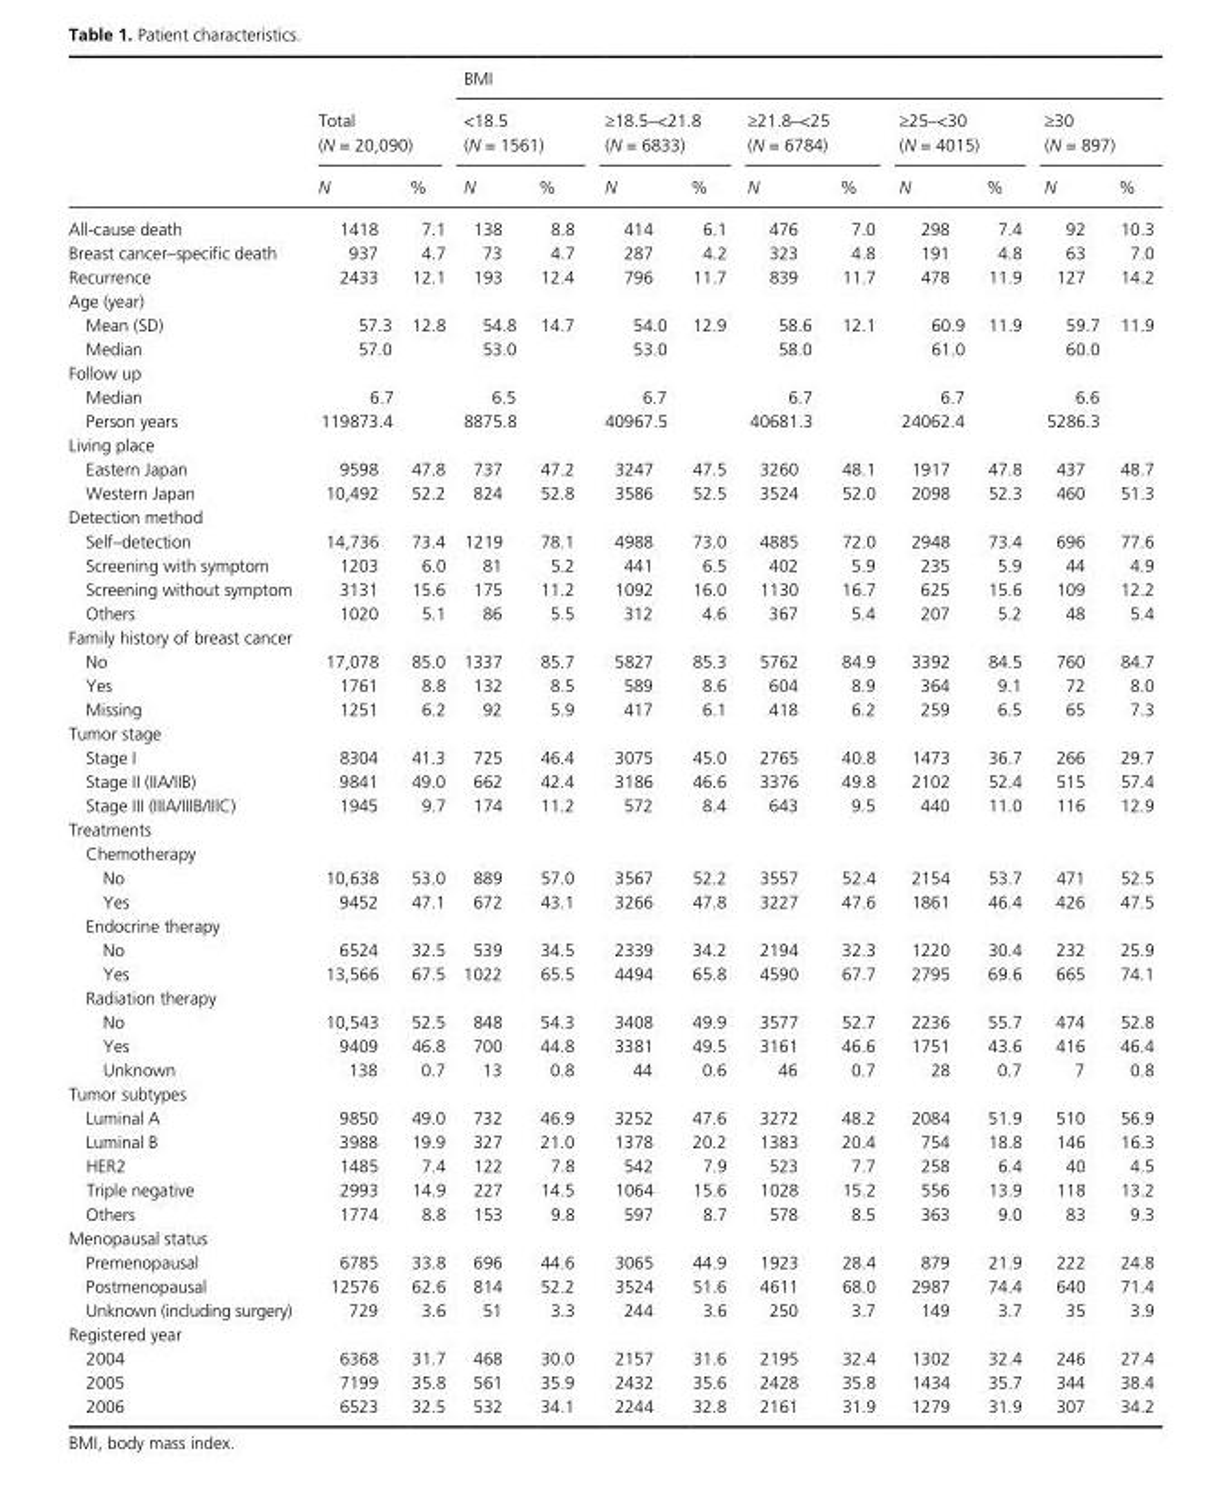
<table><thead><tr><td rowspan="3"></td><td></td><td></td><td colspan="10">BMI</td></tr><tr><td colspan="2">Total (N = 20,090)</td><td colspan="2">&lt;18.5 (N = 1561)</td><td colspan="2">≥18.5–&lt;21.8 (N = 6833)</td><td colspan="2">≥21.8–&lt;25 (N = 6784)</td><td colspan="2">≥25–&lt;30 (N = 4015)</td><td colspan="2">≥30 (N = 897)</td></tr><tr><td>N</td><td>%</td><td>N</td><td>%</td><td>N</td><td>%</td><td>N</td><td>%</td><td>N</td><td>%</td><td>N</td><td>%</td></tr></thead><tbody><tr><td>All- cause death</td><td>1418</td><td>7.1</td><td>138</td><td>8.8</td><td>414</td><td>6.1</td><td>476</td><td>7.0</td><td>298</td><td>7.4</td><td>92</td><td>10.3</td></tr><tr><td>Breast cancer–specific death</td><td>937</td><td>4.7</td><td>73</td><td>4.7</td><td>287</td><td>4.2</td><td>323</td><td>4.8</td><td>191</td><td>4.8</td><td>63</td><td>7.0</td></tr><tr><td>Recurrence</td><td>2433</td><td>12.1</td><td>193</td><td>12.4</td><td>796</td><td>11.7</td><td>839</td><td>11.7</td><td>478</td><td>11.9</td><td>127</td><td>14.2</td></tr><tr><td colspan="13">Age (year)</td></tr><tr><td>Mean (SD)</td><td>57.3</td><td>12.8</td><td>54.8</td><td>14.7</td><td>54.0</td><td>12.9</td><td>58.6</td><td>12.1</td><td>60.9</td><td>11.9</td><td>59.7</td><td>11.9</td></tr><tr><td>Median</td><td>57.0</td><td></td><td>53.0</td><td></td><td>53.0</td><td></td><td>58.0</td><td></td><td>61.0</td><td></td><td>60.0</td><td></td></tr><tr><td colspan="13">Follow up</td></tr><tr><td>Median</td><td>6.7</td><td></td><td>6.5</td><td></td><td>6.7</td><td></td><td>6.7</td><td></td><td>6.7</td><td></td><td>6.6</td><td></td></tr><tr><td>Person years</td><td>119873.4</td><td></td><td>8875.8</td><td></td><td>40967.5</td><td></td><td>40681.3</td><td></td><td>24062.4</td><td></td><td>5286.3</td><td></td></tr><tr><td colspan="13">Living place</td></tr><tr><td>Eastern Japan</td><td>9598</td><td>47.8</td><td>737</td><td>47.2</td><td>3247</td><td>47.5</td><td>3260</td><td>48.1</td><td>1917</td><td>47.8</td><td>437</td><td>48.7</td></tr><tr><td>Western Japan</td><td>10,492</td><td>52.2</td><td>824</td><td>52.8</td><td>3586</td><td>52.5</td><td>3524</td><td>52.0</td><td>2098</td><td>52.3</td><td>460</td><td>51.3</td></tr><tr><td colspan="13">Detection method</td></tr><tr><td>Self–detection</td><td>14,736</td><td>73.4</td><td>1219</td><td>78.1</td><td>4988</td><td>73.0</td><td>4885</td><td>72.0</td><td>2948</td><td>73.4</td><td>696</td><td>77.6</td></tr><tr><td>Screening with symptom</td><td>1203</td><td>6.0</td><td>81</td><td>5.2</td><td>441</td><td>6.5</td><td>402</td><td>5.9</td><td>235</td><td>5.9</td><td>44</td><td>4.9</td></tr><tr><td>Screening without symptom</td><td>3131</td><td>15.6</td><td>175</td><td>11.2</td><td>1092</td><td>16.0</td><td>1130</td><td>16.7</td><td>625</td><td>15.6</td><td>109</td><td>12.2</td></tr><tr><td>Others</td><td>1020</td><td>5.1</td><td>86</td><td>5.5</td><td>312</td><td>4.6</td><td>367</td><td>5.4</td><td>207</td><td>5.2</td><td>48</td><td>5.4</td></tr><tr><td colspan="13">Family history of breast cancer</td></tr><tr><td>No</td><td>17,078</td><td>85.0</td><td>1337</td><td>85.7</td><td>5827</td><td>85.3</td><td>5762</td><td>84.9</td><td>3392</td><td>84.5</td><td>760</td><td>84.7</td></tr><tr><td>Yes</td><td>1761</td><td>8.8</td><td>132</td><td>8.5</td><td>589</td><td>8.6</td><td>604</td><td>8.9</td><td>364</td><td>9.1</td><td>72</td><td>8.0</td></tr><tr><td>Missing</td><td>1251</td><td>6.2</td><td>92</td><td>5.9</td><td>417</td><td>6.1</td><td>418</td><td>6.2</td><td>259</td><td>6.5</td><td>65</td><td>7.3</td></tr><tr><td colspan="13">Tumor stage</td></tr><tr><td>Stage I</td><td>8304</td><td>41.3</td><td>725</td><td>46.4</td><td>3075</td><td>45.0</td><td>2765</td><td>40.8</td><td>1473</td><td>36.7</td><td>266</td><td>29.7</td></tr><tr><td>Stage II (IIA/IIB)</td><td>9841</td><td>49.0</td><td>662</td><td>42.4</td><td>3186</td><td>46.6</td><td>3376</td><td>49.8</td><td>2102</td><td>52.4</td><td>515</td><td>57.4</td></tr><tr><td>Stage III (IIIA/IIIB/IIIC)</td><td>1945</td><td>9.7</td><td>174</td><td>11.2</td><td>572</td><td>8.4</td><td>643</td><td>9.5</td><td>440</td><td>11.0</td><td>116</td><td>12.9</td></tr><tr><td colspan="13">Treatments</td></tr><tr><td colspan="13">Chemotherapy</td></tr><tr><td>No</td><td>10,638</td><td>53.0</td><td>889</td><td>57.0</td><td>3567</td><td>52.2</td><td>3557</td><td>52.4</td><td>2154</td><td>53.7</td><td>471</td><td>52.5</td></tr><tr><td>Yes</td><td>9452</td><td>47.1</td><td>672</td><td>43.1</td><td>3266</td><td>47.8</td><td>3227</td><td>47.6</td><td>1861</td><td>46.4</td><td>426</td><td>47.5</td></tr><tr><td colspan="13">Endocrine therapy</td></tr><tr><td>No</td><td>6524</td><td>32.5</td><td>539</td><td>34.5</td><td>2339</td><td>34.2</td><td>2194</td><td>32.3</td><td>1220</td><td>30.4</td><td>232</td><td>25.9</td></tr><tr><td>Yes</td><td>13,566</td><td>67.5</td><td>1022</td><td>65.5</td><td>4494</td><td>65.8</td><td>4590</td><td>67.7</td><td>2795</td><td>69.6</td><td>665</td><td>74.1</td></tr><tr><td colspan="13">Radiation therapy</td></tr><tr><td>No</td><td>10,543</td><td>52.5</td><td>848</td><td>54.3</td><td>3408</td><td>49.9</td><td>3577</td><td>52.7</td><td>2236</td><td>55.7</td><td>474</td><td>52.8</td></tr><tr><td>Yes</td><td>9409</td><td>46.8</td><td>700</td><td>44.8</td><td>3381</td><td>49.5</td><td>3161</td><td>46.6</td><td>1751</td><td>43.6</td><td>416</td><td>46.4</td></tr><tr><td>Unknown</td><td>138</td><td>0.7</td><td>13</td><td>0.8</td><td>44</td><td>0.6</td><td>46</td><td>0.7</td><td>28</td><td>0.7</td><td>7</td><td>0.8</td></tr><tr><td colspan="13">Tumor subtypes</td></tr><tr><td>Luminal A</td><td>9850</td><td>49.0</td><td>732</td><td>46.9</td><td>3252</td><td>47.6</td><td>3272</td><td>48.2</td><td>2084</td><td>51.9</td><td>510</td><td>56.9</td></tr><tr><td>Luminal B</td><td>3988</td><td>19.9</td><td>327</td><td>21.0</td><td>1378</td><td>20.2</td><td>1383</td><td>20.4</td><td>754</td><td>18.8</td><td>146</td><td>16.3</td></tr><tr><td>HER2</td><td>1485</td><td>7.4</td><td>122</td><td>7.8</td><td>542</td><td>7.9</td><td>523</td><td>7.7</td><td>258</td><td>6.4</td><td>40</td><td>4.5</td></tr><tr><td>Triple negative</td><td>2993</td><td>14.9</td><td>227</td><td>14.5</td><td>1064</td><td>15.6</td><td>1028</td><td>15.2</td><td>556</td><td>13.9</td><td>118</td><td>13.2</td></tr><tr><td>Others</td><td>1774</td><td>8.8</td><td>153</td><td>9.8</td><td>597</td><td>8.7</td><td>578</td><td>8.5</td><td>363</td><td>9.0</td><td>83</td><td>9.3</td></tr><tr><td colspan="13">Menopausal status</td></tr><tr><td>Premenopausal</td><td>6785</td><td>33.8</td><td>696</td><td>44.6</td><td>3065</td><td>44.9</td><td>1923</td><td>28.4</td><td>879</td><td>21.9</td><td>222</td><td>24.8</td></tr><tr><td>Postmenopausal</td><td>12576</td><td>62.6</td><td>814</td><td>52.2</td><td>3524</td><td>51.6</td><td>4611</td><td>68.0</td><td>2987</td><td>74.4</td><td>640</td><td>71.4</td></tr><tr><td>Unknown (including surgery)</td><td>729</td><td>3.6</td><td>51</td><td>3.3</td><td>244</td><td>3.6</td><td>250</td><td>3.7</td><td>149</td><td>3.7</td><td>35</td><td>3.9</td></tr><tr><td colspan="13">Registered year</td></tr><tr><td>2004</td><td>6368</td><td>31.7</td><td>468</td><td>30.0</td><td>2157</td><td>31.6</td><td>2195</td><td>32.4</td><td>1302</td><td>32.4</td><td>246</td><td>27.4</td></tr><tr><td>2005</td><td>7199</td><td>35.8</td><td>561</td><td>35.9</td><td>2432</td><td>35.6</td><td>2428</td><td>35.8</td><td>1434</td><td>35.7</td><td>344</td><td>38.4</td></tr><tr><td>2006</td><td>6523</td><td>32.5</td><td>532</td><td>34.1</td><td>2244</td><td>32.8</td><td>2161</td><td>31.9</td><td>1279</td><td>31.9</td><td>307</td><td>34.2</td></tr></tbody></table>